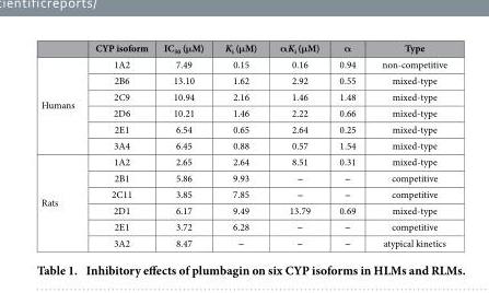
<table><thead><tr><td></td><td>CYP isoform</td><td>IC<sub>50</sub> (μM)</td><td>K<sub>i</sub> (μM)</td><td>αK<sub>i</sub> (μM)</td><td>α</td><td>Type</td></tr></thead><tbody><tr><td rowspan="6">Humans</td><td>1A2</td><td>7.49</td><td>0.15</td><td>0.16</td><td>0.94</td><td>non-competitive</td></tr><tr><td>2B6</td><td>13.10</td><td>1.62</td><td>2.92</td><td>0.55</td><td>mixed-type</td></tr><tr><td>2C9</td><td>10.94</td><td>2.16</td><td>1.46</td><td>1.48</td><td>mixed-type</td></tr><tr><td>2D6</td><td>10.21</td><td>1.46</td><td>2.22</td><td>0.66</td><td>mixed-type</td></tr><tr><td>2E1</td><td>6.54</td><td>0.65</td><td>2.64</td><td>0.25</td><td>mixed-type</td></tr><tr><td>3A4</td><td>6.45</td><td>0.88</td><td>0.57</td><td>1.54</td><td>mixed-type</td></tr><tr><td rowspan="6">Rats</td><td>1A2</td><td>2.65</td><td>2.64</td><td>8.51</td><td>0.31</td><td>mixed-type</td></tr><tr><td>2B1</td><td>5.86</td><td>9.93</td><td>‒</td><td>‒</td><td>competitive</td></tr><tr><td>2C11</td><td>3.85</td><td>7.85</td><td>‒</td><td>‒</td><td>competitive</td></tr><tr><td>2D1</td><td>6.17</td><td>9.49</td><td>13.79</td><td>0.69</td><td>mixed-type</td></tr><tr><td>2E1</td><td>3.72</td><td>6.28</td><td>‒</td><td>‒</td><td>competitive</td></tr><tr><td>3A2</td><td>8.47</td><td>‒</td><td>‒</td><td>‒</td><td>atypical kinetics</td></tr></tbody></table>